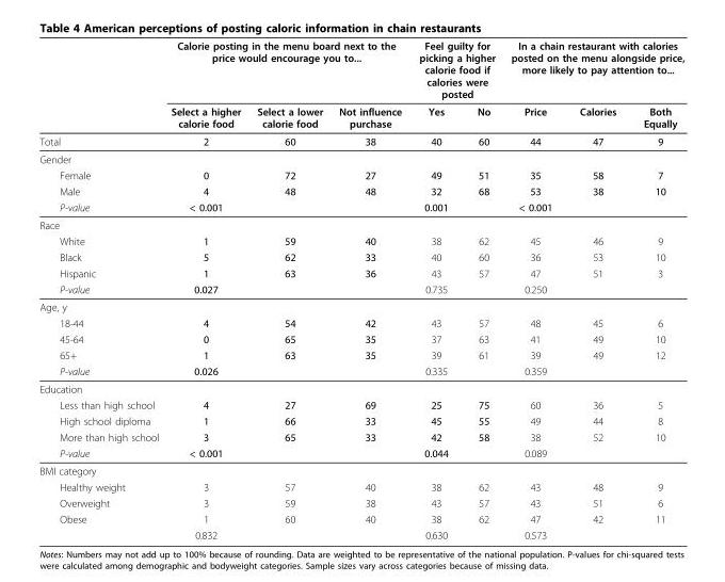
<table><thead><tr><td rowspan="2"></td><td colspan="3">Calorie posting in the menu board next to the price would encourage you to...</td><td colspan="2">Feel guilty for picking a higher calorie food if calories were posted</td><td colspan="3">In a chain restaurant with calories posted on the menu alongside price, more likely to pay attention to...</td></tr><tr><td>Select a higher calorie food</td><td>Select a lower calorie food</td><td>Not influence purchase</td><td>Yes</td><td>No</td><td>Price</td><td>Calories</td><td>Both Equally</td></tr></thead><tbody><tr><td>Total</td><td>2</td><td>60</td><td>38</td><td>40</td><td>60</td><td>44</td><td>47</td><td>9</td></tr><tr><td colspan="9">Gender</td></tr><tr><td>Female</td><td>0</td><td>72</td><td>27</td><td>49</td><td>51</td><td>35</td><td>58</td><td>7</td></tr><tr><td>Male</td><td>4</td><td>48</td><td>48</td><td>32</td><td>68</td><td>53</td><td>38</td><td>10</td></tr><tr><td>P-value</td><td>&lt; 0.001</td><td></td><td></td><td>0.001</td><td></td><td>&lt; 0.001</td><td></td><td></td></tr><tr><td colspan="9">Race</td></tr><tr><td>White</td><td>1</td><td>59</td><td>40</td><td>38</td><td>62</td><td>45</td><td>46</td><td>9</td></tr><tr><td>Black</td><td>5</td><td>62</td><td>33</td><td>40</td><td>60</td><td>36</td><td>53</td><td>10</td></tr><tr><td>Hispanic</td><td>1</td><td>63</td><td>36</td><td>43</td><td>57</td><td>47</td><td>51</td><td>3</td></tr><tr><td>P-value</td><td>0.027</td><td></td><td></td><td>0.735</td><td></td><td>0.250</td><td></td><td></td></tr><tr><td colspan="9">Age, y</td></tr><tr><td>18-44</td><td>4</td><td>54</td><td>42</td><td>43</td><td>57</td><td>48</td><td>45</td><td>6</td></tr><tr><td>45-64</td><td>0</td><td>65</td><td>35</td><td>37</td><td>63</td><td>41</td><td>49</td><td>10</td></tr><tr><td>65+</td><td>1</td><td>63</td><td>35</td><td>39</td><td>61</td><td>39</td><td>49</td><td>12</td></tr><tr><td>P-value</td><td>0.026</td><td></td><td></td><td>0.335</td><td></td><td>0.359</td><td></td><td></td></tr><tr><td colspan="9">Education</td></tr><tr><td>Less than high school</td><td>4</td><td>27</td><td>69</td><td>25</td><td>75</td><td>60</td><td>36</td><td>5</td></tr><tr><td>High school diploma</td><td>1</td><td>66</td><td>33</td><td>45</td><td>55</td><td>49</td><td>44</td><td>8</td></tr><tr><td>More than high school</td><td>3</td><td>65</td><td>33</td><td>42</td><td>58</td><td>38</td><td>52</td><td>10</td></tr><tr><td>P-value</td><td>&lt; 0.001</td><td></td><td></td><td>0.044</td><td></td><td>0.089</td><td></td><td></td></tr><tr><td colspan="9">BMI category</td></tr><tr><td>Healthy weight</td><td>3</td><td>57</td><td>40</td><td>38</td><td>62</td><td>43</td><td>48</td><td>9</td></tr><tr><td>Overweight</td><td>3</td><td>59</td><td>38</td><td>43</td><td>57</td><td>43</td><td>51</td><td>6</td></tr><tr><td rowspan="2">Obese</td><td>1</td><td>60</td><td>40</td><td>38</td><td>62</td><td>47</td><td>42</td><td>11</td></tr><tr><td>0.832</td><td></td><td></td><td>0.630</td><td></td><td>0.573</td><td></td><td></td></tr></tbody></table>